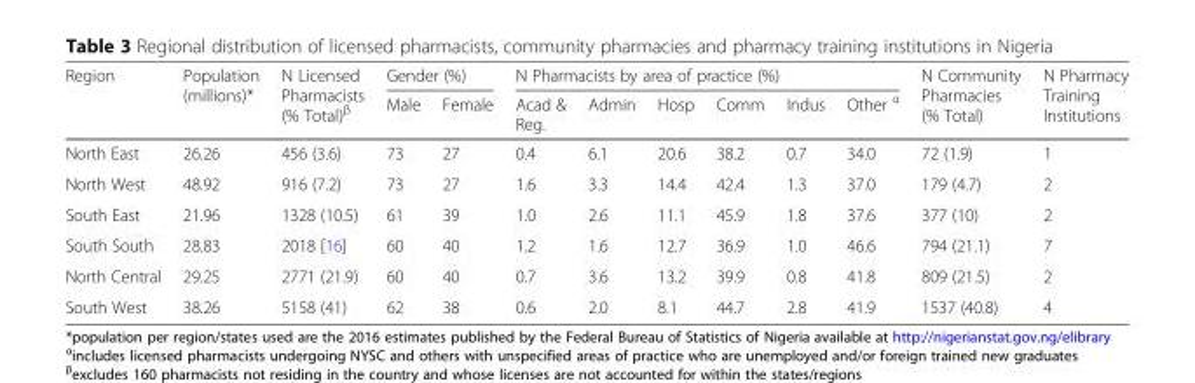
<table><thead><tr><td rowspan="2">Region</td><td rowspan="2">Population (millions)*</td><td rowspan="2">N Licensed Pharmacists (% Total)<sup>β</sup></td><td colspan="2">Gender (%)</td><td colspan="6">N Pharmacists by area of practice (%)</td><td rowspan="2">N Community Pharmacies (% Total)</td><td rowspan="2">N Pharmacy Training Institutions</td></tr><tr><td>Male</td><td>Female</td><td>Acad &amp; Reg.</td><td>Admin</td><td>Hosp</td><td>Comm</td><td>Indus</td><td>Other <sup>α</sup></td></tr></thead><tbody><tr><td>North East</td><td>26.26</td><td>456 (3.6)</td><td>73</td><td>27</td><td>0.4</td><td>6.1</td><td>20.6</td><td>38.2</td><td>0.7</td><td>34.0</td><td>72 (1.9)</td><td>1</td></tr><tr><td>North West</td><td>48.92</td><td>916 (7.2)</td><td>73</td><td>27</td><td>1.6</td><td>3.3</td><td>14.4</td><td>42.4</td><td>1.3</td><td>37.0</td><td>179 (4.7)</td><td>2</td></tr><tr><td>South East</td><td>21.96</td><td>1328 (10.5)</td><td>61</td><td>39</td><td>1.0</td><td>2.6</td><td>11.1</td><td>45.9</td><td>1.8</td><td>37.6</td><td>377 (10)</td><td>2</td></tr><tr><td>South South</td><td>28.83</td><td>2018 [16]</td><td>60</td><td>40</td><td>1.2</td><td>1.6</td><td>12.7</td><td>36.9</td><td>1.0</td><td>46.6</td><td>794 (21.1)</td><td>7</td></tr><tr><td>North Central</td><td>29.25</td><td>2771 (21.9)</td><td>60</td><td>40</td><td>0.7</td><td>3.6</td><td>13.2</td><td>39.9</td><td>0.8</td><td>41.8</td><td>809 (21.5)</td><td>2</td></tr><tr><td>South West</td><td>38.26</td><td>5158 (41)</td><td>62</td><td>38</td><td>0.6</td><td>2.0</td><td>8.1</td><td>44.7</td><td>2.8</td><td>41.9</td><td>1537 (40.8)</td><td>4</td></tr></tbody></table>